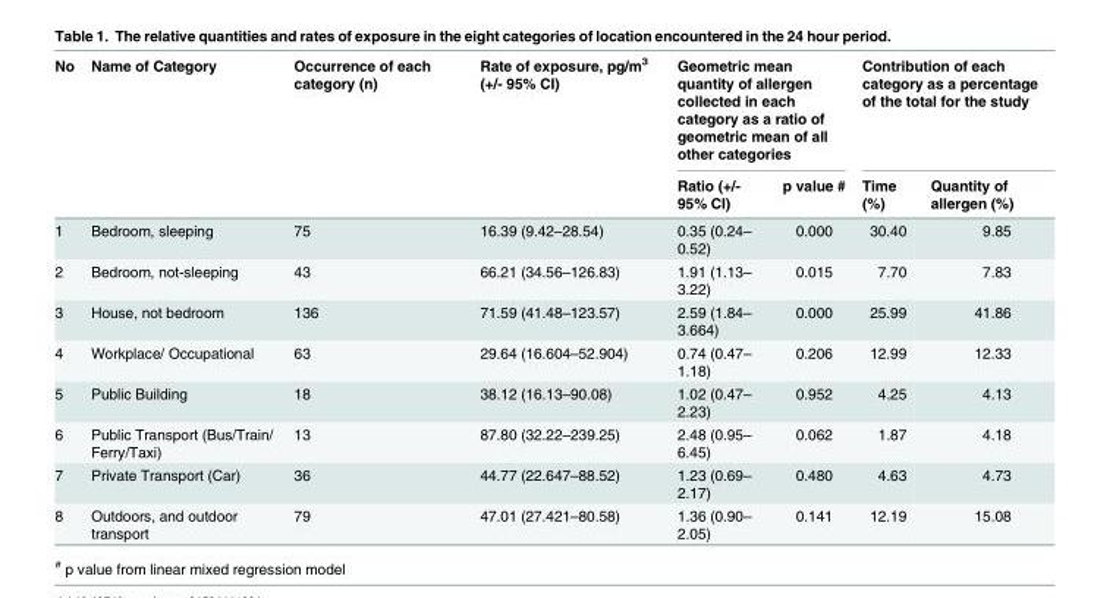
<table><thead><tr><td rowspan="2">No</td><td rowspan="2">Name of Category</td><td rowspan="2">Occurrence of each category (n)</td><td rowspan="2">Rate of exposure, pg/m<sup>3</sup> (+/- 95% CI)</td><td colspan="2">Geometric mean quantity of allergen collected in each category as a ratio of geometric mean of all other categories</td><td colspan="2">Contribution of each category as a percentage of the total for the study</td></tr><tr><td>Ratio (+/- 95% CI)</td><td>p value #</td><td>Time (%)</td><td>Quantity of allergen (%)</td></tr></thead><tbody><tr><td>1</td><td>Bedroom, sleeping</td><td>75</td><td>16.39 (9.42–28.54)</td><td>0.35 (0.24– 0.52)</td><td>0.000</td><td>30.40</td><td>9.85</td></tr><tr><td>2</td><td>Bedroom, not-sleeping</td><td>43</td><td>66.21 (34.56–126.83)</td><td>1.91 (1.13– 3.22)</td><td>0.015</td><td>7.70</td><td>7.83</td></tr><tr><td>3</td><td>House, not bedroom</td><td>136</td><td>71.59 (41.48–123.57)</td><td>2.59 (1.84– 3.664)</td><td>0.000</td><td>25.99</td><td>41.86</td></tr><tr><td>4</td><td>Workplace/ Occupational</td><td>63</td><td>29.64 (16.604–52.904)</td><td>0.74 (0.47– 1.18)</td><td>0.206</td><td>12.99</td><td>12.33</td></tr><tr><td>5</td><td>Public Building</td><td>18</td><td>38.12 (16.13–90.08)</td><td>1.02 (0.47– 2.23)</td><td>0.952</td><td>4.25</td><td>4.13</td></tr><tr><td>6</td><td>Public Transport (Bus/Train/ Ferry/Taxi)</td><td>13</td><td>87.80 (32.22–239.25)</td><td>2.48 (0.95– 6.45)</td><td>0.062</td><td>1.87</td><td>4.18</td></tr><tr><td>7</td><td>Private Transport (Car)</td><td>36</td><td>44.77 (22.647–88.52)</td><td>1.23 (0.69– 2.17)</td><td>0.480</td><td>4.63</td><td>4.73</td></tr><tr><td>8</td><td>Outdoors, and outdoor transport</td><td>79</td><td>47.01 (27.421–80.58)</td><td>1.36 (0.90– 2.05)</td><td>0.141</td><td>12.19</td><td>15.08</td></tr></tbody></table>